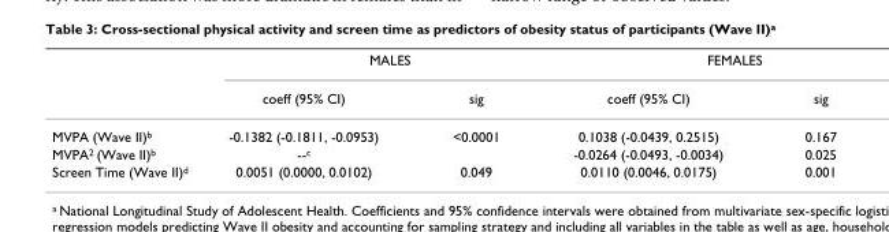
<table><thead><tr><td rowspan="2"></td><td colspan="2">MALES</td><td colspan="2">FEMALES</td></tr><tr><td>coeff (95% CI)</td><td>sig</td><td>coeff (95% CI)</td><td>sig</td></tr></thead><tbody><tr><td>MVPA (Wave II)<sup>b</sup></td><td>-0.1382 (-0.1811, -0.0953)</td><td>&lt;0.0001</td><td>0.1038 (-0.0439, 0.2515)</td><td>0.167</td></tr><tr><td>MVPA<sup>2</sup> (Wave II)<sup>b</sup></td><td>--<sup>c</sup></td><td></td><td>-0.0264 (-0.0493, -0.0034)</td><td>0.025</td></tr><tr><td>Screen Time (Wave II)<sup>d</sup></td><td>0.0051 (0.0000, 0.0102)</td><td>0.049</td><td>0.0110 (0.0046, 0.0175)</td><td>0.001</td></tr></tbody></table>